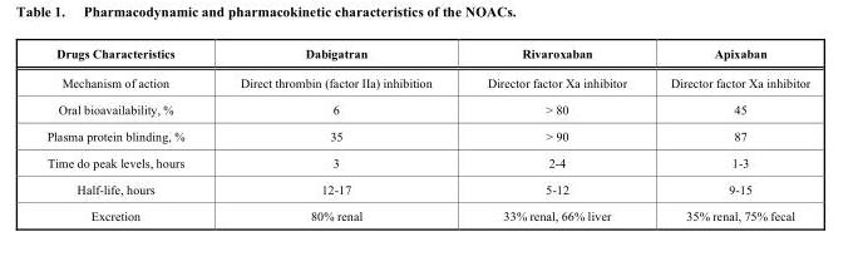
<table><thead><tr><td>Drugs Characteristics</td><td>Dabigatran</td><td>Rivaroxaban</td><td>Apixaban</td></tr></thead><tbody><tr><td>Mechanism of action</td><td>Direct thrombin (factor IIa) inhibition</td><td>Director factor Xa inhibitor</td><td>Director factor Xa inhibitor</td></tr><tr><td>Oral bioavailability, %</td><td>6</td><td>&gt; 80</td><td>45</td></tr><tr><td>Plasma protein blinding, %</td><td>35</td><td>&gt; 90</td><td>87</td></tr><tr><td>Time do peak levels, hours</td><td>3</td><td>2-4</td><td>1-3</td></tr><tr><td>Half-life, hours</td><td>12-17</td><td>5-12</td><td>9-15</td></tr><tr><td>Excretion</td><td>80% renal</td><td>33% renal, 66% liver</td><td>35% renal, 75% fecal</td></tr></tbody></table>